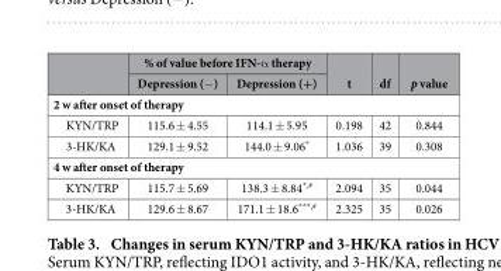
<table><thead><tr><td rowspan="2"></td><td colspan="2">% of value before IFN-α therapy</td><td rowspan="2">t</td><td rowspan="2">df</td><td rowspan="2">p value</td></tr><tr><td>Depression (− )</td><td>Depression (+)</td></tr></thead><tbody><tr><td colspan="6">2 w after onset of therapy</td></tr><tr><td>KYN/TRP</td><td>115.6 ± 4.55</td><td>114.1 ± 5.95</td><td>0.198</td><td>42</td><td>0.844</td></tr><tr><td>3-HK/KA</td><td>129.1 ± 9.52</td><td>144.0 ± 9.06*</td><td>1.036</td><td>39</td><td>0.308</td></tr><tr><td colspan="6">4 w after onset of therapy</td></tr><tr><td>KYN/TRP</td><td>115.7 ± 5.69</td><td>138.3 ± 8.84<sup>*,#</sup></td><td>2.094</td><td>35</td><td>0.044</td></tr><tr><td>3-HK/KA</td><td>129.6 ± 8.67</td><td>171.1 ± 18.6<sup>***,#</sup></td><td>2.325</td><td>35</td><td>0.026</td></tr></tbody></table>